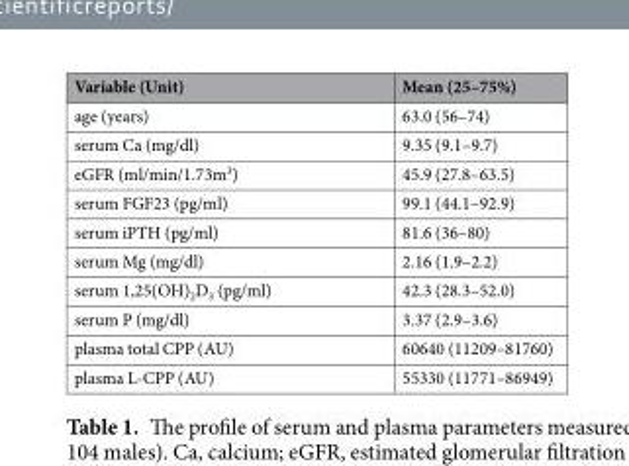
<table><thead><tr><td>Variable (Unit)</td><td>Mean (25–75%)</td></tr></thead><tbody><tr><td>age (years)</td><td>63.0 (56–74)</td></tr><tr><td>serum Ca (mg/dl)</td><td>9.35 (9.1–9.7)</td></tr><tr><td>eGFR (ml/min/1.73m<sup>3</sup>)</td><td>45.9 (27.8–63.5)</td></tr><tr><td>serum FGF23 (pg/ml)</td><td>99.1 (44.1–92.9)</td></tr><tr><td>serum iPTH (pg/ml)</td><td>81.6 (36–80)</td></tr><tr><td>serum Mg (mg/dl)</td><td>2.16 (1.9–2.2)</td></tr><tr><td>serum 1,25(OH)<sub>2</sub>D<sub>3</sub> (pg/ml)</td><td>42.3 (28.3–52.0)</td></tr><tr><td>serum P (mg/dl)</td><td>3.37 (2.9–3.6)</td></tr><tr><td>plasma total CPP (AU)</td><td>60640 (11209–81760)</td></tr><tr><td>plasma L-CPP (AU)</td><td>55330 (11771–86949)</td></tr></tbody></table>